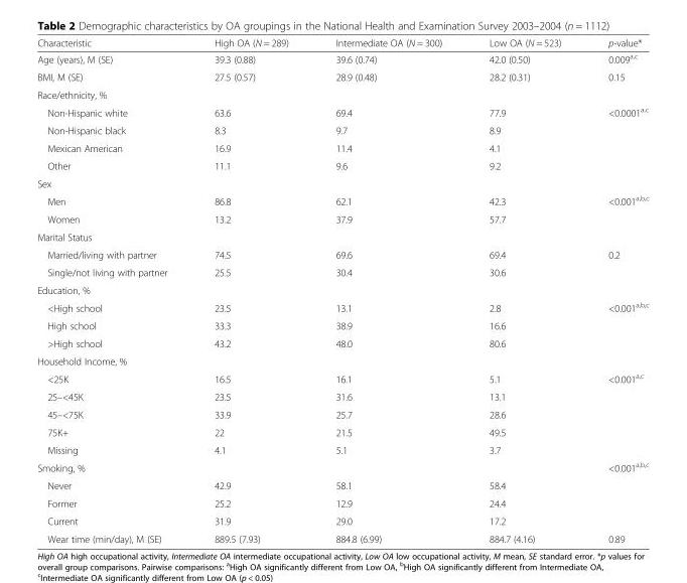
<table><thead><tr><td>Characteristic</td><td>High OA (N = 289)</td><td>Intermediate OA (N = 300)</td><td>Low OA (N = 523)</td><td>p-value*</td></tr></thead><tbody><tr><td>Age (years), M (SE)</td><td>39.3 (0.88)</td><td>39.6 (0.74)</td><td>42.0 (0.50)</td><td>0.009<sup>a,c</sup></td></tr><tr><td>BMI, M (SE)</td><td>27.5 (0.57)</td><td>28.9 (0.48)</td><td>28.2 (0.31)</td><td>0.15</td></tr><tr><td colspan="5">Race/ethnicity, %</td></tr><tr><td>Non-Hispanic white</td><td>63.6</td><td>69.4</td><td>77.9</td><td>&lt;0.0001<sup>a,c</sup></td></tr><tr><td>Non-Hispanic black</td><td>8.3</td><td>9.7</td><td>8.9</td><td></td></tr><tr><td>Mexican American</td><td>16.9</td><td>11.4</td><td>4.1</td><td></td></tr><tr><td>Other</td><td>11.1</td><td>9.6</td><td>9.2</td><td></td></tr><tr><td colspan="5">Sex</td></tr><tr><td>Men</td><td>86.8</td><td>62.1</td><td>42.3</td><td>&lt;0.001<sup>a,b,c</sup></td></tr><tr><td>Women</td><td>13.2</td><td>37.9</td><td>57.7</td><td></td></tr><tr><td colspan="5">Marital Status</td></tr><tr><td>Married/living with partner</td><td>74.5</td><td>69.6</td><td>69.4</td><td>0.2</td></tr><tr><td>Single/not living with partner</td><td>25.5</td><td>30.4</td><td>30.6</td><td></td></tr><tr><td colspan="5">Education, %</td></tr><tr><td>&lt;High school</td><td>23.5</td><td>13.1</td><td>2.8</td><td>&lt;0.001<sup>a,b,c</sup></td></tr><tr><td>High school</td><td>33.3</td><td>38.9</td><td>16.6</td><td></td></tr><tr><td>&gt;High school</td><td>43.2</td><td>48.0</td><td>80.6</td><td></td></tr><tr><td colspan="5">Household Income, %</td></tr><tr><td>&lt;25K</td><td>16.5</td><td>16.1</td><td>5.1</td><td>&lt;0.001<sup>a,c</sup></td></tr><tr><td>25–&lt;45K</td><td>23.5</td><td>31.6</td><td>13.1</td><td></td></tr><tr><td>45–&lt;75K</td><td>33.9</td><td>25.7</td><td>28.6</td><td></td></tr><tr><td>75K+</td><td>22</td><td>21.5</td><td>49.5</td><td></td></tr><tr><td>Missing</td><td>4.1</td><td>5.1</td><td>3.7</td><td></td></tr><tr><td>Smoking, %</td><td></td><td></td><td></td><td>&lt;0.001<sup>a,b,c</sup></td></tr><tr><td>Never</td><td>42.9</td><td>58.1</td><td>58.4</td><td></td></tr><tr><td>Former</td><td>25.2</td><td>12.9</td><td>24.4</td><td></td></tr><tr><td>Current</td><td>31.9</td><td>29.0</td><td>17.2</td><td></td></tr><tr><td>Wear time (min/day), M (SE)</td><td>889.5 (7.93)</td><td>884.8 (6.99)</td><td>884.7 (4.16)</td><td>0.89</td></tr></tbody></table>